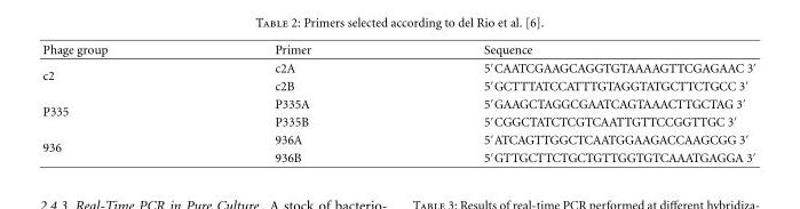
<table><thead><tr><td>Phage group</td><td>Primer</td><td>Sequence</td></tr></thead><tbody><tr><td rowspan="2">c2</td><td>c2A</td><td>5′CAATCGAAGCAGGTGTAAAAGTTCGAGAAC 3′</td></tr><tr><td>c2B</td><td>5′GCTTTATCCATTTGTAGGTATGCTTCTGCC 3′</td></tr><tr><td rowspan="2">P335</td><td>P335A</td><td>5′GAAGCTAGGCGAATCAGTAAACTTGCTAG 3′</td></tr><tr><td>P335B</td><td>5′CGGCTATCTCGTCAATTGTTCCGGTTGC 3′</td></tr><tr><td rowspan="2">936</td><td>936A</td><td>5′ATCAGTTGGCTCAATGGAAGACCAAGCGG 3′</td></tr><tr><td>936B</td><td>5′GTTGCTTCTGCTGTTGGTGTCAAATGAGGA 3′</td></tr></tbody></table>